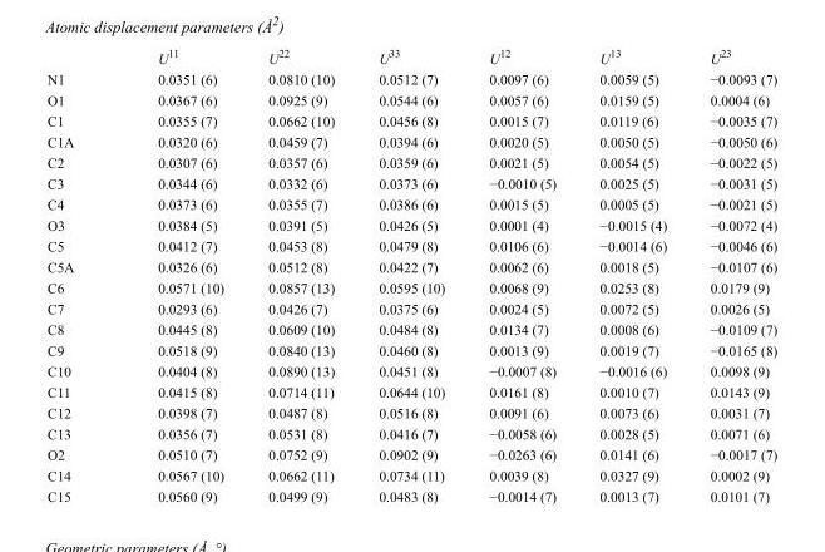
<table><thead><tr><td></td><td>U<sup>11</sup></td><td>U<sup>22</sup></td><td>U<sup>33</sup></td><td>U<sup>12</sup></td><td>U<sup>13</sup></td><td>U<sup>23</sup></td></tr></thead><tbody><tr><td>N1</td><td>0.0351 (6)</td><td>0.0810 (10)</td><td>0.0512 (7)</td><td>0.0097 (6)</td><td>0.0059 (5)</td><td>−0.0093 (7)</td></tr><tr><td>O1</td><td>0.0367 (6)</td><td>0.0925 (9)</td><td>0.0544 (6)</td><td>0.0057 (6)</td><td>0.0159 (5)</td><td>0.0004 (6)</td></tr><tr><td>C1</td><td>0.0355 (7)</td><td>0.0662 (10)</td><td>0.0456 (8)</td><td>0.0015 (7)</td><td>0.0119 (6)</td><td>−0.0035 (7)</td></tr><tr><td>C1A</td><td>0.0320 (6)</td><td>0.0459 (7)</td><td>0.0394 (6)</td><td>0.0020 (5)</td><td>0.0050 (5)</td><td>−0.0050 (6)</td></tr><tr><td>C2</td><td>0.0307 (6)</td><td>0.0357 (6)</td><td>0.0359 (6)</td><td>0.0021 (5)</td><td>0.0054 (5)</td><td>−0.0022 (5)</td></tr><tr><td>C3</td><td>0.0344 (6)</td><td>0.0332 (6)</td><td>0.0373 (6)</td><td>−0.0010 (5)</td><td>0.0025 (5)</td><td>−0.0031 (5)</td></tr><tr><td>C4</td><td>0.0373 (6)</td><td>0.0355 (7)</td><td>0.0386 (6)</td><td>0.0015 (5)</td><td>0.0005 (5)</td><td>−0.0021 (5)</td></tr><tr><td>O3</td><td>0.0384 (5)</td><td>0.0391 (5)</td><td>0.0426 (5)</td><td>0.0001 (4)</td><td>−0.0015 (4)</td><td>−0.0072 (4)</td></tr><tr><td>C5</td><td>0.0412 (7)</td><td>0.0453 (8)</td><td>0.0479 (8)</td><td>0.0106 (6)</td><td>−0.0014 (6)</td><td>−0.0046 (6)</td></tr><tr><td>C5A</td><td>0.0326 (6)</td><td>0.0512 (8)</td><td>0.0422 (7)</td><td>0.0062 (6)</td><td>0.0018 (5)</td><td>−0.0107 (6)</td></tr><tr><td>C6</td><td>0.0571 (10)</td><td>0.0857 (13)</td><td>0.0595 (10)</td><td>0.0068 (9)</td><td>0.0253 (8)</td><td>0.0179 (9)</td></tr><tr><td>C7</td><td>0.0293 (6)</td><td>0.0426 (7)</td><td>0.0375 (6)</td><td>0.0024 (5)</td><td>0.0072 (5)</td><td>0.0026 (5)</td></tr><tr><td>C8</td><td>0.0445 (8)</td><td>0.0609 (10)</td><td>0.0484 (8)</td><td>0.0134 (7)</td><td>0.0008 (6)</td><td>−0.0109 (7)</td></tr><tr><td>C9</td><td>0.0518 (9)</td><td>0.0840 (13)</td><td>0.0460 (8)</td><td>0.0013 (9)</td><td>0.0019 (7)</td><td>−0.0165 (8)</td></tr><tr><td>C10</td><td>0.0404 (8)</td><td>0.0890 (13)</td><td>0.0451 (8)</td><td>−0.0007 (8)</td><td>−0.0016 (6)</td><td>0.0098 (9)</td></tr><tr><td>C11</td><td>0.0415 (8)</td><td>0.0714 (11)</td><td>0.0644 (10)</td><td>0.0161 (8)</td><td>0.0010 (7)</td><td>0.0143 (9)</td></tr><tr><td>C12</td><td>0.0398 (7)</td><td>0.0487 (8)</td><td>0.0516 (8)</td><td>0.0091 (6)</td><td>0.0073 (6)</td><td>0.0031 (7)</td></tr><tr><td>C13</td><td>0.0356 (7)</td><td>0.0531 (8)</td><td>0.0416 (7)</td><td>−0.0058 (6)</td><td>0.0028 (5)</td><td>0.0071 (6)</td></tr><tr><td>O2</td><td>0.0510 (7)</td><td>0.0752 (9)</td><td>0.0902 (9)</td><td>−0.0263 (6)</td><td>0.0141 (6)</td><td>−0.0017 (7)</td></tr><tr><td>C14</td><td>0.0567 (10)</td><td>0.0662 (11)</td><td>0.0734 (11)</td><td>0.0039 (8)</td><td>0.0327 (9)</td><td>0.0002 (9)</td></tr><tr><td>C15</td><td>0.0560 (9)</td><td>0.0499 (9)</td><td>0.0483 (8)</td><td>−0.0014 (7)</td><td>0.0013 (7)</td><td>0.0101 (7)</td></tr></tbody></table>